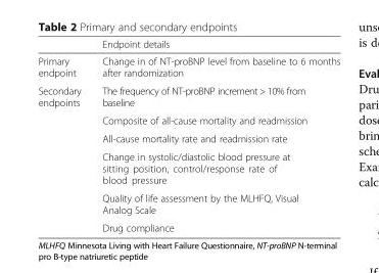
<table><thead><tr><td></td><td>Endpoint details</td></tr></thead><tbody><tr><td>Primary endpoint</td><td>Change in of NT-proBNP level from baseline to 6 months after randomization</td></tr><tr><td rowspan="6">Secondary endpoints</td><td>The frequency of NT-proBNP increment &gt; 10% from baseline</td></tr><tr><td>Composite of all-cause mortality and readmission</td></tr><tr><td>All-cause mortality rate and readmission rate</td></tr><tr><td>Change in systolic/diastolic blood pressure at sitting position, control/response rate of blood pressure</td></tr><tr><td>Quality of life assessment by the MLHFQ, Visual Analog Scale</td></tr><tr><td>Drug compliance</td></tr></tbody></table>